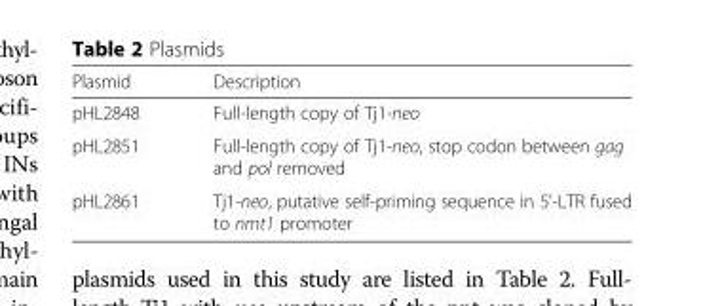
<table><thead><tr><td>Plasmid</td><td>Description</td></tr></thead><tbody><tr><td>pHL2848</td><td>Full-length copy of Tj1-neo</td></tr><tr><td>pHL2851</td><td>Full-length copy of Tj1-neo, stop codon between gag and pol removed</td></tr><tr><td>pHL2861</td><td>Tj1-neo, putative self-priming sequence in 5&#x27;-LTR fused to nmt1 promoter</td></tr></tbody></table>